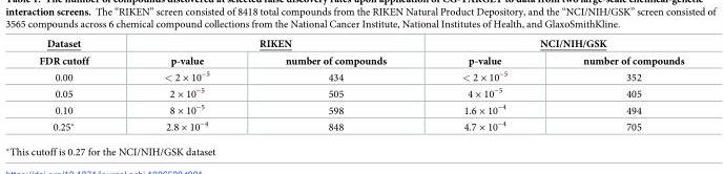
<table><thead><tr><td rowspan="2">Dataset FDR cutoff</td><td colspan="2">RIKEN</td><td colspan="2">NCI/NIH/GSK</td></tr><tr><td>p-value</td><td>number of compounds</td><td>p-value</td><td>number of compounds</td></tr></thead><tbody><tr><td>0.00</td><td>&lt; 2 × 10<sup>−5</sup></td><td>434</td><td>&lt; 2 × 10<sup>−5</sup></td><td>352</td></tr><tr><td>0.05</td><td>2 × 10<sup>−5</sup></td><td>505</td><td>4 × 10<sup>−5</sup></td><td>405</td></tr><tr><td>0.10</td><td>8 × 10<sup>−5</sup></td><td>598</td><td>1.6 × 10<sup>−4</sup></td><td>494</td></tr><tr><td>0.25*</td><td>2.8 × 10<sup>−4</sup></td><td>848</td><td>4.7 × 10<sup>−4</sup></td><td>705</td></tr></tbody></table>